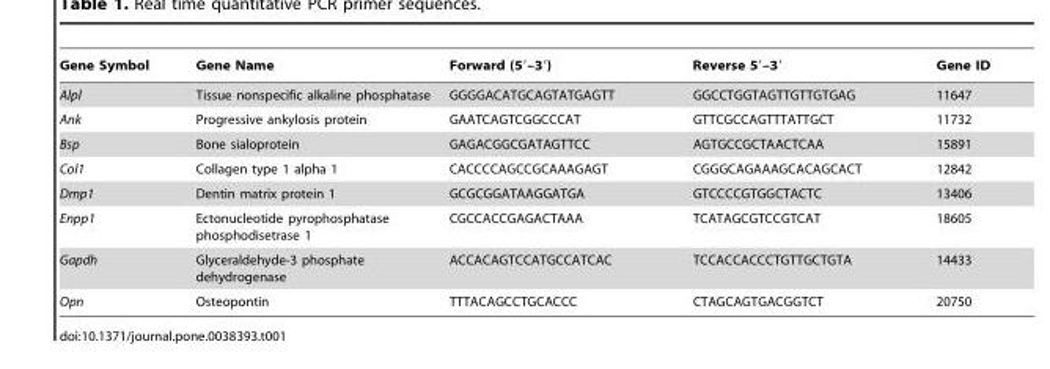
<table><thead><tr><td>Gene Symbol</td><td>Gene Name</td><td>Forward (5′–3′)</td><td>Reverse 5′–3′</td><td>Gene ID</td></tr></thead><tbody><tr><td>Alpl</td><td>Tissue nonspecific alkaline phosphatase</td><td>GGGGACATGCAGTATGAGTT</td><td>GGCCTGGTAGTTGTTGTGAG</td><td>11647</td></tr><tr><td>Ank</td><td>Progressive ankylosis protein</td><td>GAATCAGTCGGCCCAT</td><td>GTTCGCCAGTTTATTGCT</td><td>11732</td></tr><tr><td>Bsp</td><td>Bone sialoprotein</td><td>GAGACGGCGATAGTTCC</td><td>AGTGCCGCTAACTCAA</td><td>15891</td></tr><tr><td>Col1</td><td>Collagen type 1 alpha 1</td><td>CACCCCAGCCGCAAAGAGT</td><td>CGGGCAGAAAGCACAGCACT</td><td>12842</td></tr><tr><td>Dmp1</td><td>Dentin matrix protein 1</td><td>GCGCGGATAAGGATGA</td><td>GTCCCCGTGGCTACTC</td><td>13406</td></tr><tr><td>Enpp1</td><td>Ectonucleotide pyrophosphatase phosphodisetrase 1</td><td>CGCCACCGAGACTAAA</td><td>TCATAGCGTCCGTCAT</td><td>18605</td></tr><tr><td>Gapdh</td><td>Glyceraldehyde-3 phosphate dehydrogenase</td><td>ACCACAGTCCATGCCATCAC</td><td>TCCACCACCCTGTTGCTGTA</td><td>14433</td></tr><tr><td>Opn</td><td>Osteopontin</td><td>TTTACAGCCTGCACCC</td><td>CTAGCAGTGACGGTCT</td><td>20750</td></tr></tbody></table>